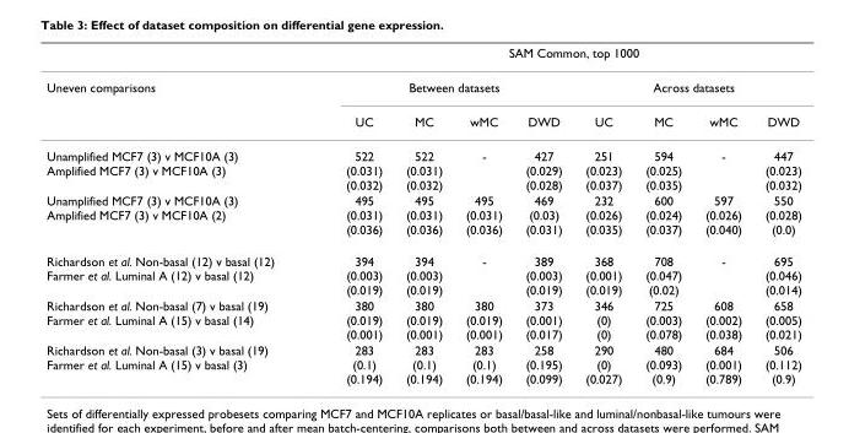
<table><thead><tr><td rowspan="3">Uneven comparisons</td><td colspan="8">SAM Common, top 1000</td></tr><tr><td colspan="4">Between datasets</td><td colspan="4">Across datasets</td></tr><tr><td>UC</td><td>MC</td><td>wMC</td><td>DWD</td><td>UC</td><td>MC</td><td>wMC</td><td>DWD</td></tr></thead><tbody><tr><td>Unamplified MCF7 (3) v MCF10A (3) Amplified MCF7 (3) v MCF10A (3)</td><td>522 (0.031) (0.032)</td><td>522 (0.031) (0.032)</td><td>-</td><td>427 (0.029) (0.028)</td><td>251 (0.023) (0.037)</td><td>594 (0.025) (0.035)</td><td>-</td><td>447 (0.023) (0.032)</td></tr><tr><td>Unamplified MCF7 (3) v MCF10A (3) Amplified MCF7 (3) v MCF10A (2)</td><td>495 (0.031) (0.036)</td><td>495 (0.031) (0.036)</td><td>495 (0.031) (0.036)</td><td>469 (0.03) (0.031)</td><td>232 (0.026) (0.035)</td><td>600 (0.024) (0.037)</td><td>597 (0.026) (0.040)</td><td>550 (0.028) (0.0)</td></tr><tr><td>Richardson et al. Non-basal (12) v basal (12) Farmer et al. Luminal A (12) v basal (12)</td><td>394 (0.003) (0.019)</td><td>394 (0.003) (0.019)</td><td>-</td><td>389 (0.003) (0.019)</td><td>368 (0.001) (0.019)</td><td>708 (0.047) (0.02)</td><td>-</td><td>695 (0.046) (0.014)</td></tr><tr><td>Richardson et al. Non-basal (7) v basal (19) Farmer et al. Luminal A (15) v basal (14)</td><td>380 (0.019) (0.001)</td><td>380 (0.019) (0.001)</td><td>380 (0.019) (0.001)</td><td>373 (0.001) (0.017)</td><td>346 (0) (0)</td><td>725 (0.003) (0.078)</td><td>608 (0.002) (0.038)</td><td>658 (0.005) (0.021)</td></tr><tr><td>Richardson et al. Non-basal (3) v basal (19) Farmer et al. Luminal A (15) v basal (3)</td><td>283 (0.1) (0.194)</td><td>283 (0.1) (0.194)</td><td>283 (0.1) (0.194)</td><td>258 (0.195) (0.099)</td><td>290 (0) (0.027)</td><td>480 (0.093) (0.9)</td><td>684 (0.001) (0.789)</td><td>506 (0.112) (0.9)</td></tr></tbody></table>